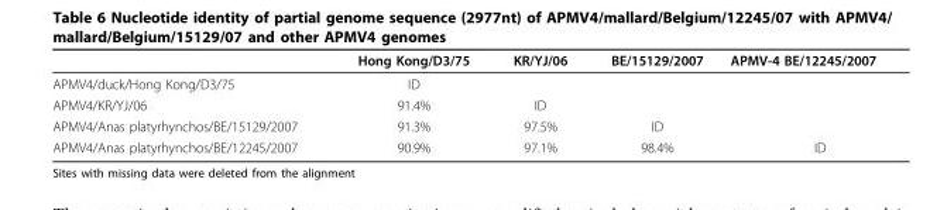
<table><thead><tr><td></td><td>Hong Kong/D3/75</td><td>KR/YJ/06</td><td>BE/15129/2007</td><td>APMV-4 BE/12245/2007</td></tr></thead><tbody><tr><td>APMV4/duck/Hong Kong/D3/75</td><td>ID</td><td></td><td></td><td></td></tr><tr><td>APMV4/KR/YJ/06</td><td>91.4%</td><td>ID</td><td></td><td></td></tr><tr><td>APMV4/Anas platyrhynchos/BE/15129/2007</td><td>91.3%</td><td>97.5%</td><td>ID</td><td></td></tr><tr><td>APMV4/Anas platyrhynchos/BE/12245/2007</td><td>90.9%</td><td>97.1%</td><td>98.4%</td><td>ID</td></tr></tbody></table>